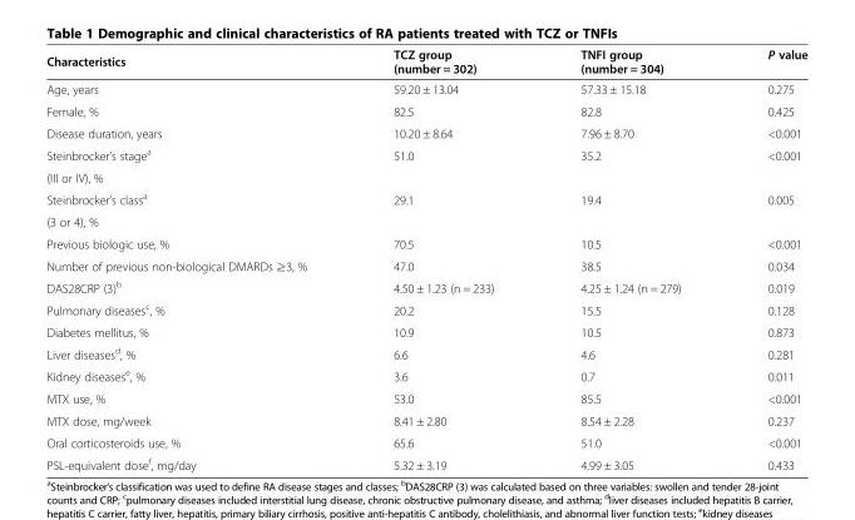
<table><thead><tr><td>Characteristics</td><td>TCZ group (number = 302)</td><td>TNFI group (number = 304)</td><td>P value</td></tr></thead><tbody><tr><td>Age, years</td><td>59.20 ± 13.04</td><td>57.33 ± 15.18</td><td>0.275</td></tr><tr><td>Female, %</td><td>82.5</td><td>82.8</td><td>0.425</td></tr><tr><td>Disease duration, years</td><td>10.20 ± 8.64</td><td>7.96 ± 8.70</td><td>&lt;0.001</td></tr><tr><td>Steinbrocker’s stage<sup>a</sup></td><td rowspan="2">51.0</td><td rowspan="2">35.2</td><td rowspan="2">&lt;0.001</td></tr><tr><td>(III or IV), %</td></tr><tr><td>Steinbrocker’s class<sup>a</sup></td><td rowspan="2">29.1</td><td rowspan="2">19.4</td><td rowspan="2">0.005</td></tr><tr><td>(3 or 4), %</td></tr><tr><td>Previous biologic use, %</td><td>70.5</td><td>10.5</td><td>&lt;0.001</td></tr><tr><td>Number of previous non-biological DMARDs ≥3, %</td><td>47.0</td><td>38.5</td><td>0.034</td></tr><tr><td>DAS28CRP (3)<sup>b</sup></td><td>4.50 ± 1.23 (n = 233)</td><td>4.25 ± 1.24 (n = 279)</td><td>0.019</td></tr><tr><td>Pulmonary diseases<sup>c</sup>, %</td><td>20.2</td><td>15.5</td><td>0.128</td></tr><tr><td>Diabetes mellitus, %</td><td>10.9</td><td>10.5</td><td>0.873</td></tr><tr><td>Liver diseases<sup>d</sup>, %</td><td>6.6</td><td>4.6</td><td>0.281</td></tr><tr><td>Kidney diseases<sup>e</sup>, %</td><td>3.6</td><td>0.7</td><td>0.011</td></tr><tr><td>MTX use, %</td><td>53.0</td><td>85.5</td><td>&lt;0.001</td></tr><tr><td>MTX dose, mg/week</td><td>8.41 ± 2.80</td><td>8.54 ± 2.28</td><td>0.237</td></tr><tr><td>Oral corticosteroids use, %</td><td>65.6</td><td>51.0</td><td>&lt;0.001</td></tr><tr><td>PSL-equivalent dose<sup>f</sup>, mg/day</td><td>5.32 ± 3.19</td><td>4.99 ± 3.05</td><td>0.433</td></tr></tbody></table>